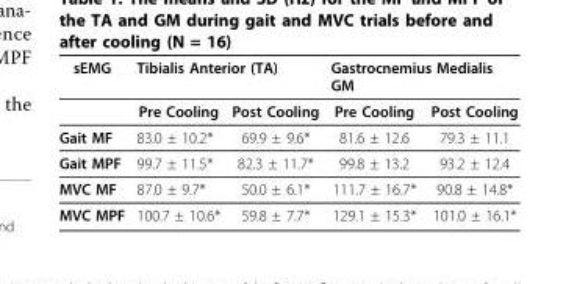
<table><thead><tr><td rowspan="2">sEMG</td><td colspan="2">Tibialis Anterior (TA)</td><td colspan="2">Gastrocnemius Medialis GM</td></tr><tr><td>Pre Cooling</td><td>Post Cooling</td><td>Pre Cooling</td><td>Post Cooling</td></tr></thead><tbody><tr><td>Gait MF</td><td>83.0 ± 10.2*</td><td>69.9 ± 9.6*</td><td>81.6 ± 12.6</td><td>79.3 ± 11.1</td></tr><tr><td>Gait MPF</td><td>99.7 ± 11.5*</td><td>82.3 ± 11.7*</td><td>99.8 ± 13.2</td><td>93.2 ± 12.4</td></tr><tr><td>MVC MF</td><td>87.0 ± 9.7*</td><td>50.0 ± 6.1*</td><td>111.7 ± 16.7*</td><td>90.8 ± 14.8*</td></tr><tr><td>MVC MPF</td><td>100.7 ± 10.6*</td><td>59.8 ± 7.7*</td><td>129.1 ± 15.3*</td><td>101.0 ± 16.1*</td></tr></tbody></table>